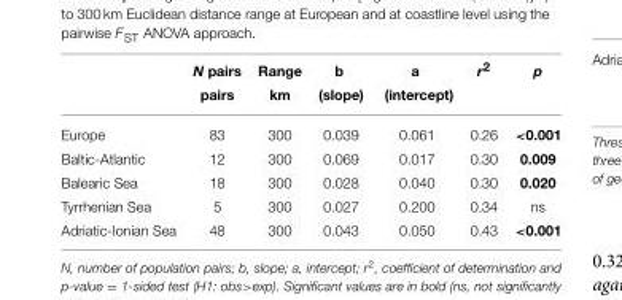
<table><thead><tr><td rowspan="2"></td><td rowspan="2">N pairs pairs</td><td rowspan="2">Range km</td><td rowspan="2">b (slope)</td><td rowspan="2">a (intercept)</td><td rowspan="2">r<sup>2</sup></td><td rowspan="2">p</td></tr><tr></tr></thead><tbody><tr><td>Europe</td><td>83</td><td>300</td><td>0.039</td><td>0.061</td><td>0.26</td><td>&lt;0.001</td></tr><tr><td>Baltic-Atlantic</td><td>12</td><td>300</td><td>0.069</td><td>0.017</td><td>0.30</td><td>0.009</td></tr><tr><td>Balearic Sea</td><td>18</td><td>300</td><td>0.028</td><td>0.040</td><td>0.30</td><td>0.020</td></tr><tr><td>Tyrrhenian Sea</td><td>5</td><td>300</td><td>0.027</td><td>0.200</td><td>0.34</td><td>ns</td></tr><tr><td>Adriatic-Ionian Sea</td><td>48</td><td>300</td><td>0.043</td><td>0.050</td><td>0.43</td><td>&lt;0.001</td></tr></tbody></table>